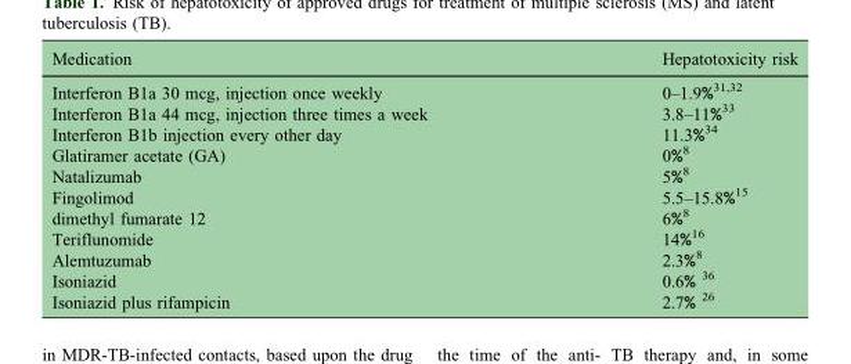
<table><thead><tr><td>Medication</td><td>Hepatotoxicity risk</td></tr></thead><tbody><tr><td>Interferon B1a 30 mcg, injection once weekly</td><td>0–1.9%<sup>31,32</sup></td></tr><tr><td>Interferon B1a 44 mcg, injection three times a week</td><td>3.8–11%<sup>33</sup></td></tr><tr><td>Interferon B1b injection every other day</td><td>11.3%<sup>34</sup></td></tr><tr><td>Glatiramer acetate (GA)</td><td>0%<sup>8</sup></td></tr><tr><td>Natalizumab</td><td>5%<sup>8</sup></td></tr><tr><td>Fingolimod</td><td>5.5–15.8%<sup>15</sup></td></tr><tr><td>dimethyl fumarate 12</td><td>6%<sup>8</sup></td></tr><tr><td>Teriflunomide</td><td>14%<sup>16</sup></td></tr><tr><td>Alemtuzumab</td><td>2.3%<sup>8</sup></td></tr><tr><td>Isoniazid</td><td>0.6% <sup>36</sup></td></tr><tr><td>Isoniazid plus rifampicin</td><td>2.7% <sup>26</sup></td></tr></tbody></table>